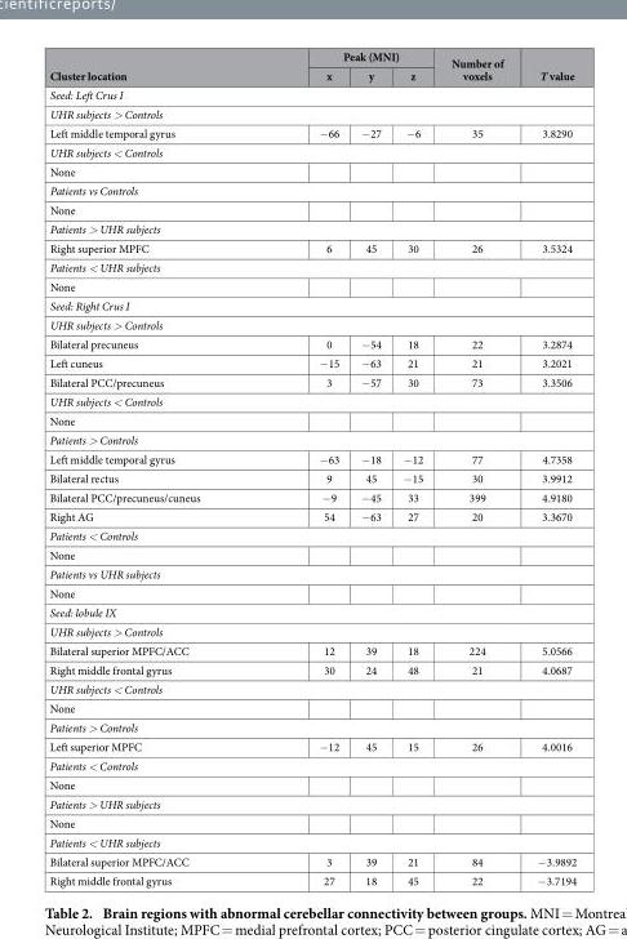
<table><thead><tr><td rowspan="2">Cluster location</td><td colspan="3">Peak (MNI)</td><td rowspan="2">Number of voxels</td><td rowspan="2">T value</td></tr><tr><td>x</td><td>y</td><td>z</td></tr></thead><tbody><tr><td colspan="6">Seed: Left Crus I</td></tr><tr><td colspan="6">UHR subjects &gt; Controls</td></tr><tr><td>Left middle temporal gyrus</td><td>− 66</td><td>− 27</td><td>− 6</td><td>35</td><td>3.8290</td></tr><tr><td colspan="6">UHR subjects &lt; Controls</td></tr><tr><td colspan="6">None</td></tr><tr><td colspan="6">Patients vs Controls</td></tr><tr><td colspan="6">None</td></tr><tr><td colspan="6">Patients &gt; UHR subjects</td></tr><tr><td>Right superior MPFC</td><td>6</td><td>45</td><td>30</td><td>26</td><td>3.5324</td></tr><tr><td colspan="6">Patients &lt; UHR subjects</td></tr><tr><td colspan="6">None</td></tr><tr><td colspan="6">Seed: Right Crus I</td></tr><tr><td colspan="6">UHR subjects &gt; Controls</td></tr><tr><td>Bilateral precuneus</td><td>0</td><td>− 54</td><td>18</td><td>22</td><td>3.2874</td></tr><tr><td>Left cuneus</td><td>− 15</td><td>− 63</td><td>21</td><td>21</td><td>3.2021</td></tr><tr><td>Bilateral PCC/precuneus</td><td>3</td><td>− 57</td><td>30</td><td>73</td><td>3.3506</td></tr><tr><td colspan="6">UHR subjects &lt; Controls</td></tr><tr><td colspan="6">None</td></tr><tr><td colspan="6">Patients &gt; Controls</td></tr><tr><td>Left middle temporal gyrus</td><td>− 63</td><td>− 18</td><td>− 12</td><td>77</td><td>4.7358</td></tr><tr><td>Bilateral rectus</td><td>9</td><td>45</td><td>− 15</td><td>30</td><td>3.9912</td></tr><tr><td>Bilateral PCC/precuneus/cuneus</td><td>− 9</td><td>− 45</td><td>33</td><td>399</td><td>4.9180</td></tr><tr><td>Right AG</td><td>54</td><td>− 63</td><td>27</td><td>20</td><td>3.3670</td></tr><tr><td colspan="6">Patients &lt; Controls</td></tr><tr><td colspan="6">None</td></tr><tr><td colspan="6">Patients vs UHR subjects</td></tr><tr><td colspan="6">None</td></tr><tr><td colspan="6">Seed: lobule IX</td></tr><tr><td colspan="6">UHR subjects &gt; Controls</td></tr><tr><td>Bilateral superior MPFC/ACC</td><td>12</td><td>39</td><td>18</td><td>224</td><td>5.0566</td></tr><tr><td>Right middle frontal gyrus</td><td>30</td><td>24</td><td>48</td><td>21</td><td>4.0687</td></tr><tr><td colspan="6">UHR subjects &lt; Controls</td></tr><tr><td colspan="6">None</td></tr><tr><td colspan="6">Patients &gt; Controls</td></tr><tr><td>Left superior MPFC</td><td>− 12</td><td>45</td><td>15</td><td>26</td><td>4.0016</td></tr><tr><td colspan="6">Patients &lt; Controls</td></tr><tr><td colspan="6">None</td></tr><tr><td colspan="6">Patients &gt; UHR subjects</td></tr><tr><td colspan="6">None</td></tr><tr><td colspan="6">Patients &lt; UHR subjects</td></tr><tr><td>Bilateral superior MPFC/ACC</td><td>3</td><td>39</td><td>21</td><td>84</td><td>− 3.9892</td></tr><tr><td>Right middle frontal gyrus</td><td>27</td><td>18</td><td>45</td><td>22</td><td>− 3.7194</td></tr></tbody></table>